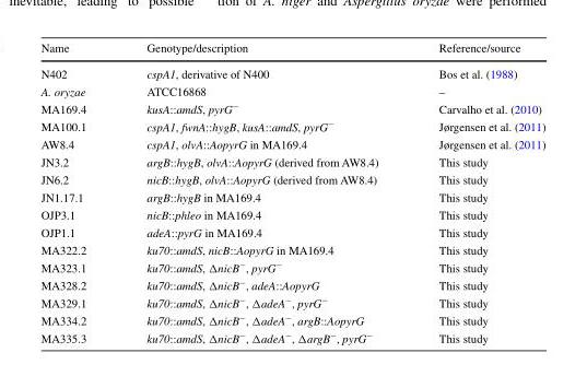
<table><thead><tr><td>Name</td><td>Genotype/description</td><td>Reference/source</td></tr></thead><tbody><tr><td>N402</td><td>cspA1, derivative of N400</td><td>Bos et al. (1988)</td></tr><tr><td>A. oryzae</td><td>ATCC16868</td><td>–</td></tr><tr><td>MA169.4</td><td>kusA::amdS, pyrG<sup>−</sup></td><td>Carvalho et al. (2010)</td></tr><tr><td>MA100.1</td><td>cspA1, fwnA::hygB, kusA::amdS, pyrG<sup>−</sup></td><td>Jørgensen et al. (2011)</td></tr><tr><td>AW8.4</td><td>cspA1, olvA::AopyrG in MA169.4</td><td>Jørgensen et al. (2011)</td></tr><tr><td>JN3.2</td><td>argB::hygB, olvA::AopyrG (derived from AW8.4)</td><td>This study</td></tr><tr><td>JN6.2</td><td>nicB::hygB, olvA::AopyrG (derived from AW8.4)</td><td>This study</td></tr><tr><td>JN1.17.1</td><td>argB::hygB in MA169.4</td><td>This study</td></tr><tr><td>OJP3.1</td><td>nicB::phleo in MA169.4</td><td>This study</td></tr><tr><td>OJP1.1</td><td>adeA::pyrG in MA169.4</td><td>This study</td></tr><tr><td>MA322.2</td><td>ku70::amdS, nicB::AopyrG in MA169.4</td><td>This study</td></tr><tr><td>MA323.1</td><td>ku70::amdS, ΔnicB<sup>−</sup>, pyrG<sup>−</sup></td><td>This study</td></tr><tr><td>MA328.2</td><td>ku70::amdS, ΔnicB<sup>−</sup>, adeA::AopyrG</td><td>This study</td></tr><tr><td>MA329.1</td><td>ku70::amdS, ΔnicB<sup>−</sup>, ΔadeA<sup>−</sup>, pyrG<sup>−</sup></td><td>This study</td></tr><tr><td>MA334.2</td><td>ku70::amdS, ΔnicB<sup>−</sup>, ΔadeA<sup>−</sup>, argB::AopyrG</td><td>This study</td></tr><tr><td>MA335.3</td><td>ku70::amdS, ΔnicB<sup>−</sup>, ΔadeA<sup>−</sup>, ΔargB<sup>−</sup>, pyrG<sup>−</sup></td><td>This study</td></tr></tbody></table>